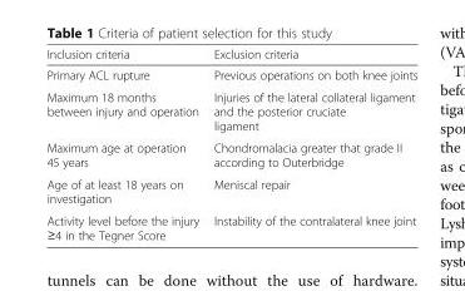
<table><thead><tr><td>Inclusion criteria</td><td>Exclusion criteria</td></tr></thead><tbody><tr><td>Primary ACL rupture</td><td>Previous operations on both knee joints</td></tr><tr><td>Maximum 18 months between injury and operation</td><td>Injuries of the lateral collateral ligament and the posterior cruciate ligament</td></tr><tr><td>Maximum age at operation 45 years</td><td>Chondromalacia greater that grade II according to Outerbridge</td></tr><tr><td>Age of at least 18 years on investigation</td><td>Meniscal repair</td></tr><tr><td>Activity level before the injury ≥4 in the Tegner Score</td><td>Instability of the contralateral knee joint</td></tr></tbody></table>